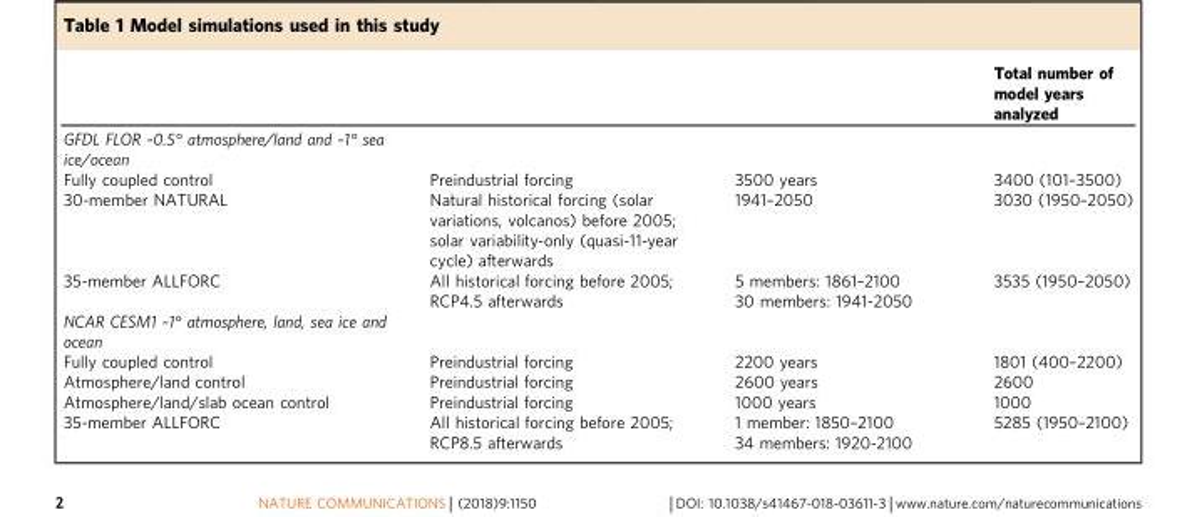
<table><thead><tr><td></td><td></td><td></td><td>Total number of model years analyzed</td></tr></thead><tbody><tr><td colspan="4">GFDL FLOR ~0.5° atmosphere/land and ~1° sea ice/ocean</td></tr><tr><td>Fully coupled control</td><td>Preindustrial forcing</td><td>3500 years</td><td>3400 (101–3500)</td></tr><tr><td>30-member NATURAL</td><td>Natural historical forcing (solar variations, volcanos) before 2005; solar variability-only (quasi-11-year cycle) afterwards</td><td>1941–2050</td><td>3030 (1950–2050)</td></tr><tr><td>35-member ALLFORC</td><td>All historical forcing before 2005; RCP4.5 afterwards</td><td>5 members: 1861–2100 30 members: 1941-2050</td><td>3535 (1950–2050)</td></tr><tr><td colspan="4">NCAR CESM1 ~1° atmosphere, land, sea ice and ocean</td></tr><tr><td>Fully coupled control</td><td>Preindustrial forcing</td><td>2200 years</td><td>1801 (400–2200)</td></tr><tr><td>Atmosphere/land control</td><td>Preindustrial forcing</td><td>2600 years</td><td>2600</td></tr><tr><td>Atmosphere/land/slab ocean control</td><td>Preindustrial forcing</td><td>1000 years</td><td>1000</td></tr><tr><td>35-member ALLFORC</td><td>All historical forcing before 2005; RCP8.5 afterwards</td><td>1 member: 1850–2100 34 members: 1920-2100</td><td>5285 (1950–2100)</td></tr></tbody></table>